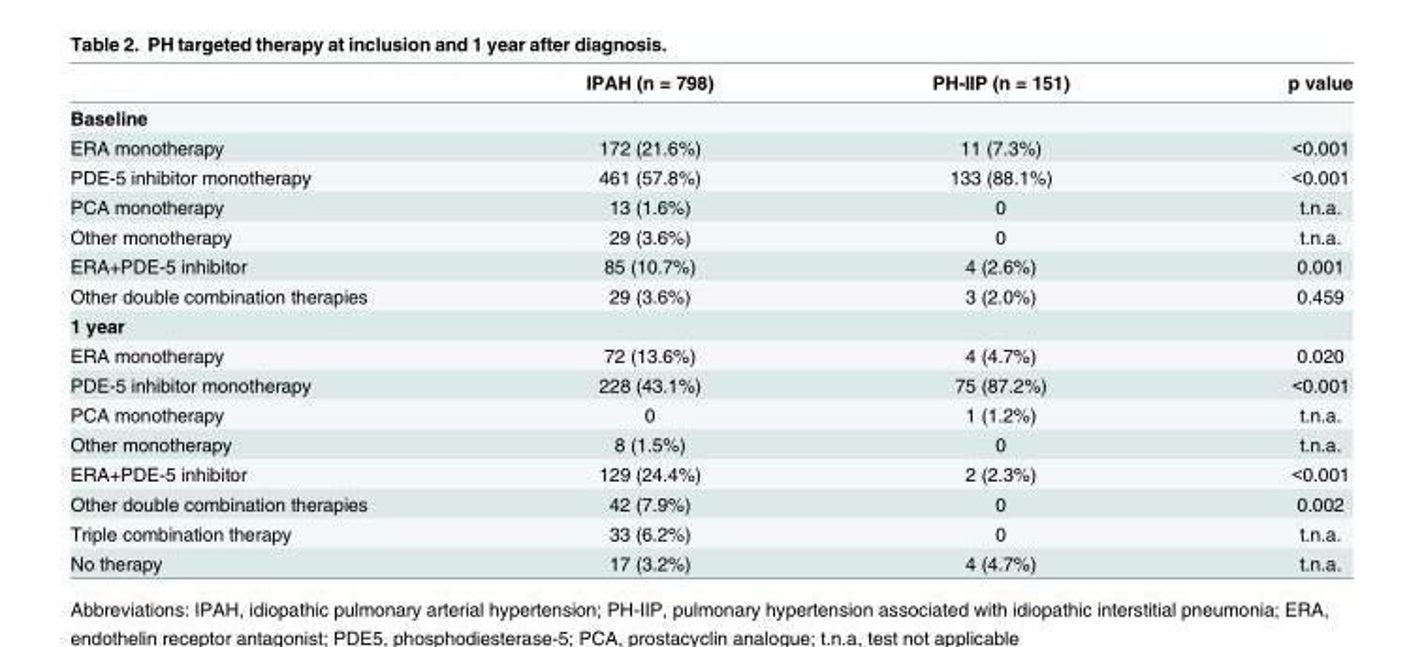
<table><thead><tr><td></td><td>IPAH (n = 798)</td><td>PH-IIP (n = 151)</td><td>p value</td></tr></thead><tbody><tr><td colspan="4">Baseline</td></tr><tr><td>ERA monotherapy</td><td>172 (21.6%)</td><td>11 (7.3%)</td><td>&lt;0.001</td></tr><tr><td>PDE-5 inhibitor monotherapy</td><td>461 (57.8%)</td><td>133 (88.1%)</td><td>&lt;0.001</td></tr><tr><td>PCA monotherapy</td><td>13 (1.6%)</td><td>0</td><td>t.n.a.</td></tr><tr><td>Other monotherapy</td><td>29 (3.6%)</td><td>0</td><td>t.n.a.</td></tr><tr><td>ERA+PDE-5 inhibitor</td><td>85 (10.7%)</td><td>4 (2.6%)</td><td>0.001</td></tr><tr><td>Other double combination therapies</td><td>29 (3.6%)</td><td>3 (2.0%)</td><td>0.459</td></tr><tr><td colspan="4">1 year</td></tr><tr><td>ERA monotherapy</td><td>72 (13.6%)</td><td>4 (4.7%)</td><td>0.020</td></tr><tr><td>PDE-5 inhibitor monotherapy</td><td>228 (43.1%)</td><td>75 (87.2%)</td><td>&lt;0.001</td></tr><tr><td>PCA monotherapy</td><td>0</td><td>1 (1.2%)</td><td>t.n.a.</td></tr><tr><td>Other monotherapy</td><td>8 (1.5%)</td><td>0</td><td>t.n.a.</td></tr><tr><td>ERA+PDE-5 inhibitor</td><td>129 (24.4%)</td><td>2 (2.3%)</td><td>&lt;0.001</td></tr><tr><td>Other double combination therapies</td><td>42 (7.9%)</td><td>0</td><td>0.002</td></tr><tr><td>Triple combination therapy</td><td>33 (6.2%)</td><td>0</td><td>t.n.a.</td></tr><tr><td>No therapy</td><td>17 (3.2%)</td><td>4 (4.7%)</td><td>t.n.a.</td></tr></tbody></table>